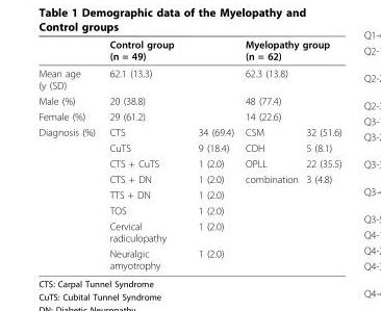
<table><thead><tr><td></td><td colspan="2">Control group (n = 49)</td><td colspan="2">Myelopathy group (n = 62)</td></tr></thead><tbody><tr><td>Mean age (y (SD)</td><td colspan="2">62.1 (13.3)</td><td colspan="2">62.3 (13.8)</td></tr><tr><td>Male (%)</td><td colspan="2">20 (38.8)</td><td colspan="2">48 (77.4)</td></tr><tr><td>Female (%)</td><td colspan="2">29 (61.2)</td><td colspan="2">14 (22.6)</td></tr><tr><td rowspan="8">Diagnosis (%)</td><td>CTS</td><td>34 (69.4)</td><td>CSM</td><td>32 (51.6)</td></tr><tr><td>CuTS</td><td>9 (18.4)</td><td>CDH</td><td>5 (8.1)</td></tr><tr><td>CTS + CuTS</td><td>1 (2.0)</td><td>OPLL</td><td>22 (35.5)</td></tr><tr><td>CTS + DN</td><td>1 (2.0)</td><td>combination</td><td>3 (4.8)</td></tr><tr><td>TTS + DN</td><td>1 (2.0)</td><td></td><td></td></tr><tr><td>TOS</td><td>1 (2.0)</td><td></td><td></td></tr><tr><td>Cervical radiculopathy</td><td>1 (2.0)</td><td></td><td></td></tr><tr><td>Neuralgic amyotrophy</td><td>1 (2.0)</td><td></td><td></td></tr></tbody></table>